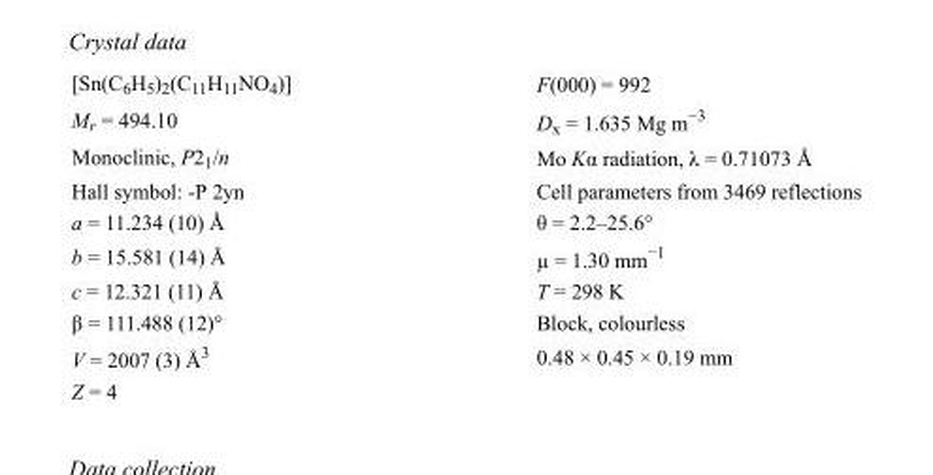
<table><tbody><tr><td>[Sn(C<sub>6</sub>H<sub>5</sub>)<sub>2</sub>(C<sub>11</sub>H<sub>11</sub>NO<sub>4</sub>)]</td><td>F(000) = 992</td></tr><tr><td>M<sub>r</sub> = 494.10</td><td>D<sub>x</sub> = 1.635 Mg m<sup>−3</sup></td></tr><tr><td>Monoclinic, P2<sub>1</sub>/n</td><td>Mo Kα radiation, λ = 0.71073 Å</td></tr><tr><td>Hall symbol: -P 2yn</td><td>Cell parameters from 3469 reflections</td></tr><tr><td>a = 11.234 (10) Å</td><td>θ = 2.2–25.6°</td></tr><tr><td>b = 15.581 (14) Å</td><td>µ = 1.30 mm<sup>−1</sup></td></tr><tr><td>c = 12.321 (11) Å</td><td>T = 298 K</td></tr><tr><td>β = 111.488 (12)°</td><td>Block, colourless</td></tr><tr><td>V = 2007 (3) Å<sup>3</sup></td><td>0.48 × 0.45 × 0.19 mm</td></tr><tr><td>Z = 4</td><td></td></tr></tbody></table>